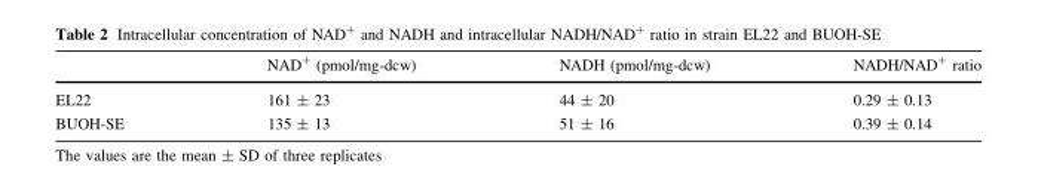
<table><thead><tr><td></td><td>NAD<sup>+</sup> (pmol/mg-dcw)</td><td>NADH (pmol/mg-dcw)</td><td>NADH/NAD<sup>+</sup> ratio</td></tr></thead><tbody><tr><td>EL22</td><td>161 ± 23</td><td>44 ± 20</td><td>0.29 ± 0.13</td></tr><tr><td>BUOH-SE</td><td>135 ± 13</td><td>51 ± 16</td><td>0.39 ± 0.14</td></tr></tbody></table>